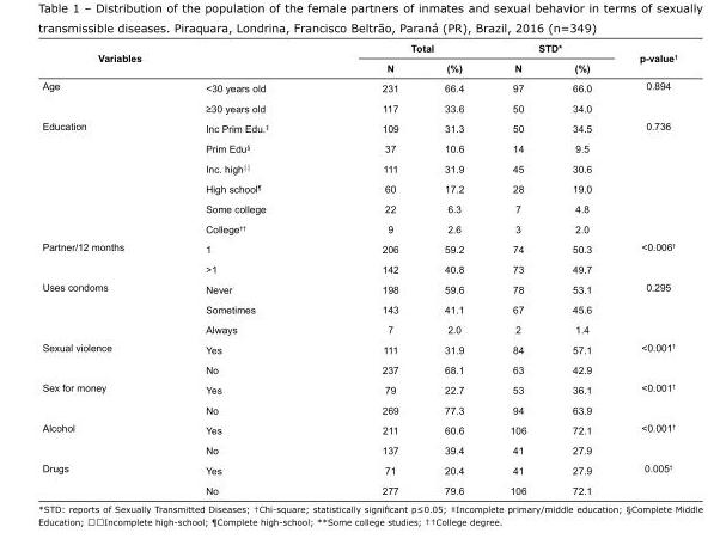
<table><tbody><tr><td rowspan="2">Variables</td><td rowspan="2"></td><td colspan="2">Total</td><td colspan="2">STD*</td><td rowspan="2">p-value<sup>†</sup></td></tr><tr><td>N</td><td>(%)</td><td>N</td><td>(%)</td></tr><tr><td rowspan="2">Age</td><td>&lt;30 years old</td><td>231</td><td>66.4</td><td>97</td><td>66.0</td><td rowspan="2">0.894</td></tr><tr><td>≥30 years old</td><td>117</td><td>33.6</td><td>50</td><td>34.0</td></tr><tr><td rowspan="6">Education</td><td>Inc Prim Edu.<sup>‡</sup></td><td>109</td><td>31.3</td><td>50</td><td>34.5</td><td rowspan="6">0.736</td></tr><tr><td>Prim Edu<sup>§</sup></td><td>37</td><td>10.6</td><td>14</td><td>9.5</td></tr><tr><td>Inc. high<sup>││</sup></td><td>111</td><td>31.9</td><td>45</td><td>30.6</td></tr><tr><td>High school<sup>¶</sup></td><td>60</td><td>17.2</td><td>28</td><td>19.0</td></tr><tr><td>Some college</td><td>22</td><td>6.3</td><td>7</td><td>4.8</td></tr><tr><td>College<sup>††</sup></td><td>9</td><td>2.6</td><td>3</td><td>2.0</td></tr><tr><td rowspan="2">Partner/12 months</td><td>1</td><td>206</td><td>59.2</td><td>74</td><td>50.3</td><td rowspan="2">&lt;0.006<sup>†</sup></td></tr><tr><td>&gt;1</td><td>142</td><td>40.8</td><td>73</td><td>49.7</td></tr><tr><td rowspan="3">Uses condoms</td><td>Never</td><td>198</td><td>59.6</td><td>78</td><td>53.1</td><td rowspan="3">0.295</td></tr><tr><td>Sometimes</td><td>143</td><td>41.1</td><td>67</td><td>45.6</td></tr><tr><td>Always</td><td>7</td><td>2.0</td><td>2</td><td>1.4</td></tr><tr><td rowspan="2">Sexual violence</td><td>Yes</td><td>111</td><td>31.9</td><td>84</td><td>57.1</td><td rowspan="2">&lt;0.001<sup>†</sup></td></tr><tr><td>No</td><td>237</td><td>68.1</td><td>63</td><td>42.9</td></tr><tr><td rowspan="2">Sex for money</td><td>Yes</td><td>79</td><td>22.7</td><td>53</td><td>36.1</td><td rowspan="2">&lt;0.001<sup>†</sup></td></tr><tr><td>No</td><td>269</td><td>77.3</td><td>94</td><td>63.9</td></tr><tr><td rowspan="2">Alcohol</td><td>Yes</td><td>211</td><td>60.6</td><td>106</td><td>72.1</td><td rowspan="2">&lt;0.001<sup>†</sup></td></tr><tr><td>No</td><td>137</td><td>39.4</td><td>41</td><td>27.9</td></tr><tr><td rowspan="2">Drugs</td><td>Yes</td><td>71</td><td>20.4</td><td>41</td><td>27.9</td><td rowspan="2">0.005<sup>†</sup></td></tr><tr><td>No</td><td>277</td><td>79.6</td><td>106</td><td>72.1</td></tr></tbody></table>